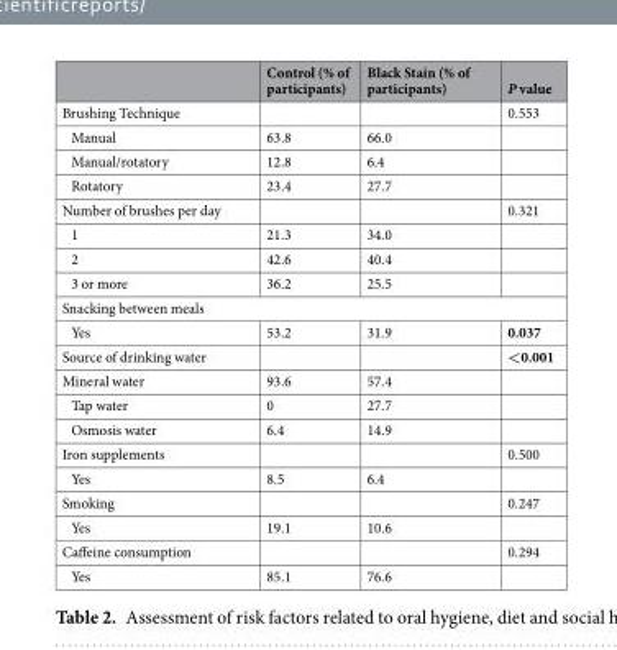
<table><thead><tr><td></td><td>Control (% of participants)</td><td>Black Stain (% of participants)</td><td>P value</td></tr></thead><tbody><tr><td>Brushing Technique</td><td></td><td></td><td>0.553</td></tr><tr><td>Manual</td><td>63.8</td><td>66.0</td><td></td></tr><tr><td>Manual/rotatory</td><td>12.8</td><td>6.4</td><td></td></tr><tr><td>Rotatory</td><td>23.4</td><td>27.7</td><td></td></tr><tr><td>Number of brushes per day</td><td></td><td></td><td>0.321</td></tr><tr><td>1</td><td>21.3</td><td>34.0</td><td></td></tr><tr><td>2</td><td>42.6</td><td>40.4</td><td></td></tr><tr><td>3 or more</td><td>36.2</td><td>25.5</td><td></td></tr><tr><td colspan="4">Snacking between meals</td></tr><tr><td>Yes</td><td>53.2</td><td>31.9</td><td>0.037</td></tr><tr><td>Source of drinking water</td><td></td><td></td><td>&lt;0.001</td></tr><tr><td>Mineral water</td><td>93.6</td><td>57.4</td><td></td></tr><tr><td>Tap water</td><td>0</td><td>27.7</td><td></td></tr><tr><td>Osmosis water</td><td>6.4</td><td>14.9</td><td></td></tr><tr><td>Iron supplements</td><td></td><td></td><td>0.500</td></tr><tr><td>Yes</td><td>8.5</td><td>6.4</td><td></td></tr><tr><td>Smoking</td><td></td><td></td><td>0.247</td></tr><tr><td>Yes</td><td>19.1</td><td>10.6</td><td></td></tr><tr><td>Caffeine consumption</td><td></td><td></td><td>0.294</td></tr><tr><td>Yes</td><td>85.1</td><td>76.6</td><td></td></tr></tbody></table>